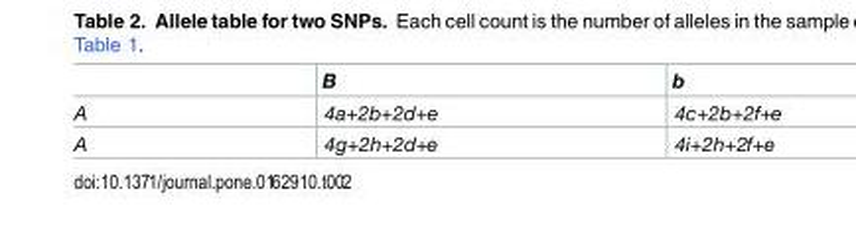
<table><thead><tr><td></td><td>B</td><td>b</td></tr></thead><tbody><tr><td>A</td><td>4a+2b+2d+e</td><td>4c+2b+2f+e</td></tr><tr><td>A</td><td>4g+2h+2d+e</td><td>4i+2h+2f+e</td></tr></tbody></table>